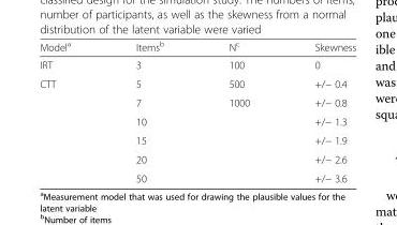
<table><thead><tr><td>Model<sup>a</sup></td><td>Items<sup>b</sup></td><td>N<sup>c</sup></td><td>Skewness</td></tr></thead><tbody><tr><td>IRT</td><td>3</td><td>100</td><td>0</td></tr><tr><td rowspan="6">CTT</td><td>5</td><td>500</td><td>+/− 0.4</td></tr><tr><td>7</td><td>1000</td><td>+/− 0.8</td></tr><tr><td>10</td><td></td><td>+/− 1.3</td></tr><tr><td>15</td><td></td><td>+/− 1.9</td></tr><tr><td>20</td><td></td><td>+/− 2.6</td></tr><tr><td>50</td><td></td><td>+/− 3.6</td></tr></tbody></table>